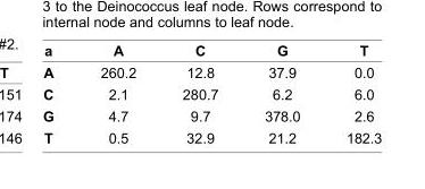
<table><thead><tr><td>a</td><td>A</td><td>C</td><td>G</td><td>T</td></tr></thead><tbody><tr><td>A</td><td>260.2</td><td>12.8</td><td>37.9</td><td>0.0</td></tr><tr><td>C</td><td>2.1</td><td>280.7</td><td>6.2</td><td>6.0</td></tr><tr><td>G</td><td>4.7</td><td>9.7</td><td>378.0</td><td>2.6</td></tr><tr><td>T</td><td>0.5</td><td>32.9</td><td>21.2</td><td>182.3</td></tr></tbody></table>